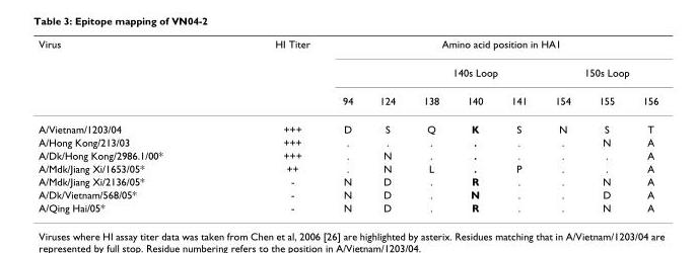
<table><thead><tr><td rowspan="3">Virus</td><td rowspan="3">HI Titer</td><td colspan="8">Amino acid position in HA1</td></tr><tr><td rowspan="2">94</td><td rowspan="2">124</td><td colspan="3">140s Loop</td><td colspan="3">150s Loop</td></tr><tr><td>138</td><td>140</td><td>141</td><td>154</td><td>155</td><td>156</td></tr></thead><tbody><tr><td>A/Vietnam/1203/04</td><td>+++</td><td>D</td><td>S</td><td>Q</td><td>K</td><td>S</td><td>N</td><td>S</td><td>T</td></tr><tr><td>A/Hong Kong/213/03</td><td>+++</td><td>.</td><td>.</td><td>.</td><td>.</td><td>.</td><td>.</td><td>N</td><td>A</td></tr><tr><td>A/Dk/Hong Kong/2986.1/00*</td><td>+++</td><td>.</td><td>N</td><td>.</td><td>.</td><td>.</td><td>.</td><td>.</td><td>A</td></tr><tr><td>A/Mdk/Jiang Xi/1653/05*</td><td>++</td><td>.</td><td>N</td><td>L</td><td>.</td><td>P</td><td>.</td><td>.</td><td>A</td></tr><tr><td>A/Mdk/Jiang Xi/2136/05*</td><td>-</td><td>N</td><td>D</td><td>.</td><td>R</td><td>.</td><td>.</td><td>N</td><td>A</td></tr><tr><td>A/Dk/Vietnam/568/05*</td><td>-</td><td>N</td><td>D</td><td>.</td><td>N</td><td>.</td><td>.</td><td>D</td><td>A</td></tr><tr><td>A/Qing Hai/05*</td><td>-</td><td>N</td><td>D</td><td>.</td><td>R</td><td>.</td><td>.</td><td>N</td><td>A</td></tr></tbody></table>